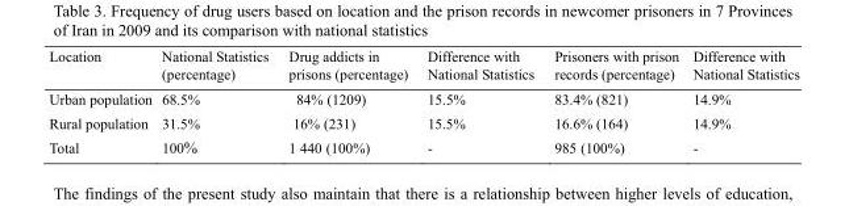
<table><thead><tr><td>Location</td><td>National Statistics (percentage)</td><td>Drug addicts in prisons (percentage)</td><td>Difference with National Statistics</td><td>Prisoners with prison records (percentage)</td><td>Difference with National Statistics</td></tr></thead><tbody><tr><td>Urban population</td><td>68.5%</td><td>84% (1209)</td><td>15.5%</td><td>83.4% (821)</td><td>14.9%</td></tr><tr><td>Rural population</td><td>31.5%</td><td>16% (231)</td><td>15.5%</td><td>16.6% (164)</td><td>14.9%</td></tr><tr><td>Total</td><td>100%</td><td>1 440 (100%)</td><td>-</td><td>985 (100%)</td><td>-</td></tr></tbody></table>